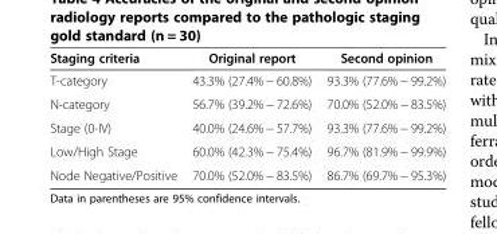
<table><thead><tr><td>Staging criteria</td><td>Original report</td><td>Second opinion</td></tr></thead><tbody><tr><td>T-category</td><td>43.3% (27.4% − 60.8%)</td><td>93.3% (77.6% − 99.2%)</td></tr><tr><td>N-category</td><td>56.7% (39.2% − 72.6%)</td><td>70.0% (52.0% − 83.5%)</td></tr><tr><td>Stage (0-IV)</td><td>40.0% (24.6% − 57.7%)</td><td>93.3% (77.6% − 99.2%)</td></tr><tr><td>Low/High Stage</td><td>60.0% (42.3% − 75.4%)</td><td>96.7% (81.9% − 99.9%)</td></tr><tr><td>Node Negative/Positive</td><td>70.0% (52.0% − 83.5%)</td><td>86.7% (69.7% − 95.3%)</td></tr></tbody></table>